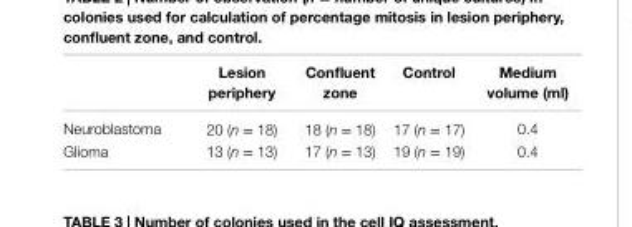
<table><thead><tr><td></td><td>lesion periphery</td><td>confluent zone</td><td>control</td><td>Medium volume (ml)</td></tr></thead><tbody><tr><td>Neuroblastoma</td><td>20 (n = 18)</td><td>18 (n = 18)</td><td>17 (n = 17)</td><td>0.4</td></tr><tr><td>Glioma</td><td>13 (n = 13)</td><td>17 (n = 13)</td><td>19 (n = 19)</td><td>0.4</td></tr></tbody></table>